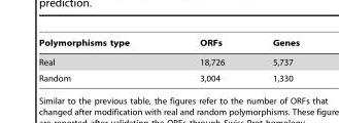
<table><thead><tr><td>Polymorphisms type</td><td>ORFs</td><td>Genes</td></tr></thead><tbody><tr><td>Real</td><td>18,726</td><td>5,737</td></tr><tr><td>Random</td><td>3,004</td><td>1,330</td></tr></tbody></table>